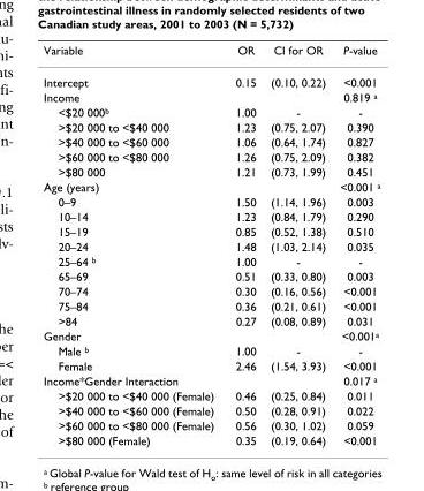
<table><thead><tr><td>Variable</td><td>OR</td><td>CI for OR</td><td>P-value</td></tr></thead><tbody><tr><td>Intercept</td><td>0.15</td><td>(0.10, 0.22)</td><td>&lt;0.001</td></tr><tr><td>Income</td><td></td><td></td><td>0.819 <sup>a</sup></td></tr><tr><td>&lt;$20 000<sup>b</sup></td><td>1.00</td><td>-</td><td>-</td></tr><tr><td>&gt;$20 000 to &lt;$40 000</td><td>1.23</td><td>(0.75, 2.07)</td><td>0.390</td></tr><tr><td>&gt;$40 000 to &lt;$60 000</td><td>1.06</td><td>(0.64, 1.74)</td><td>0.827</td></tr><tr><td>&gt;$60 000 to &lt;$80 000</td><td>1.26</td><td>(0.75, 2.09)</td><td>0.382</td></tr><tr><td>&gt;$80 000</td><td>1.21</td><td>(0.73, 1.99)</td><td>0.451</td></tr><tr><td>Age (years)</td><td></td><td></td><td>&lt;0.001 <sup>a</sup></td></tr><tr><td>0–9</td><td>1.50</td><td>(1.14, 1.96)</td><td>0.003</td></tr><tr><td>10–14</td><td>1.23</td><td>(0.84, 1.79)</td><td>0.290</td></tr><tr><td>15–19</td><td>0.85</td><td>(0.52, 1.38)</td><td>0.510</td></tr><tr><td>20–24</td><td>1.48</td><td>(1.03, 2.14)</td><td>0.035</td></tr><tr><td>25–64 <sup>b</sup></td><td>1.00</td><td>-</td><td>-</td></tr><tr><td>65–69</td><td>0.51</td><td>(0.33, 0.80)</td><td>0.003</td></tr><tr><td>70–74</td><td>0.30</td><td>(0.16, 0.56)</td><td>&lt;0.001</td></tr><tr><td>75–84</td><td>0.36</td><td>(0.21, 0.61)</td><td>&lt;0.001</td></tr><tr><td>&gt;84</td><td>0.27</td><td>(0.08, 0.89)</td><td>0.031</td></tr><tr><td>Gender</td><td></td><td></td><td>&lt;0.001<sup>a</sup></td></tr><tr><td>Male <sup>b</sup></td><td>1.00</td><td>-</td><td>-</td></tr><tr><td>Female</td><td>2.46</td><td>(1.54, 3.93)</td><td>&lt;0.001</td></tr><tr><td>Income*Gender Interaction</td><td></td><td></td><td>0.017 <sup>a</sup></td></tr><tr><td>&gt;$20 000 to &lt;$40 000 (Female)</td><td>0.46</td><td>(0.25, 0.84)</td><td>0.011</td></tr><tr><td>&gt;$40 000 to &lt;$60 000 (Female)</td><td>0.50</td><td>(0.28, 0.91)</td><td>0.022</td></tr><tr><td>&gt;$60 000 to &lt;$80 000 (Female)</td><td>0.56</td><td>(0.30, 1.02)</td><td>0.059</td></tr><tr><td>&gt;$80 000 (Female)</td><td>0.35</td><td>(0.19, 0.64)</td><td>&lt;0.001</td></tr></tbody></table>